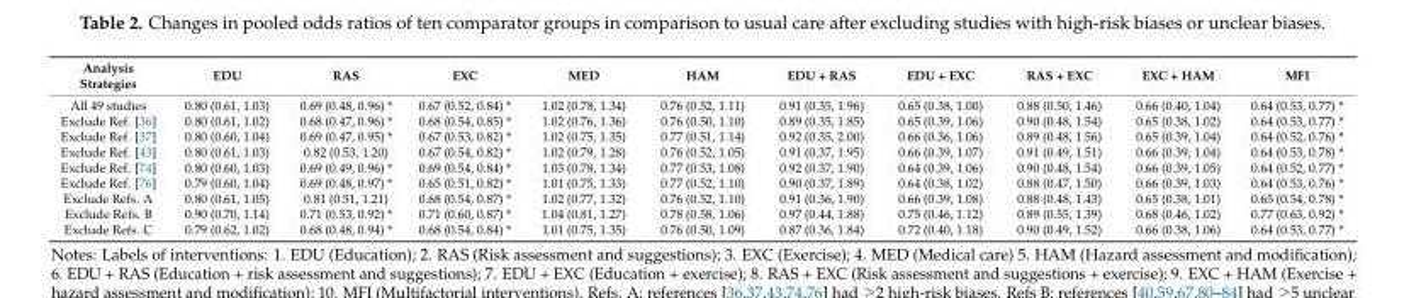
<table><thead><tr><td>Analysis Strategies</td><td>EDU</td><td>RAS</td><td>EXC</td><td>MED</td><td>HAM</td><td>EDU + RAS</td><td>EDU + EXC</td><td>RAS + EXC</td><td>EXC + HAM</td><td>MFI</td></tr></thead><tbody><tr><td>All 49 studies</td><td>0.80 (0.61, 1.03)</td><td>0.69 (0.48, 0.96) *</td><td>0.67 (0.52, 0.84) *</td><td>1.02 (0.78, 1.34)</td><td>0.76 (0.52, 1.11)</td><td>0.91 (0.35, 1.96)</td><td>0.65 (0.38, 1.00)</td><td>0.88 (0.50, 1.46)</td><td>0.66 (0.40, 1.04)</td><td>0.64 (0.53, 0.77) *</td></tr><tr><td>Exclude Ref. [36]</td><td>0.80 (0.61, 1.02)</td><td>0.68 (0.47, 0.96) *</td><td>0.68 (0.54, 0.85) *</td><td>1.02 (0.76, 1.36)</td><td>0.76 (0.50, 1.10)</td><td>0.89 (0.35, 1.85)</td><td>0.65 (0.39, 1.06)</td><td>0.90 (0.48, 1.54)</td><td>0.65 (0.38, 1.02)</td><td>0.64 (0.53, 0.77) *</td></tr><tr><td>Exclude Ref. [37]</td><td>0.80 (0.60, 1.04)</td><td>0.69 (0.47, 0.95) *</td><td>0.67 (0.53, 0.82) *</td><td>1.02 (0.75, 1.35)</td><td>0.77 (0.51, 1.14)</td><td>0.92 (0.35, 2.00)</td><td>0.66 (0.36, 1.06)</td><td>0.89 (0.48, 1.56)</td><td>0.65 (0.39, 1.04)</td><td>0.64 (0.52, 0.76) *</td></tr><tr><td>Exclude Ref. [43]</td><td>0.80 (0.61, 1.03)</td><td>0.82 (0.53, 1.20)</td><td>0.67 (0.54, 0.82) *</td><td>1.02 (0.79, 1.28)</td><td>0.76 (0.52, 1.05)</td><td>0.91 (0.37, 1.95)</td><td>0.66 (0.39, 1.07)</td><td>0.91 (0.49, 1.51)</td><td>0.66 (0.39, 1.04)</td><td>0.64 (0.53, 0.78) *</td></tr><tr><td>Exclude Ref. [74]</td><td>0.80 (0.60, 1.03)</td><td>0.69 (0.49, 0.96) *</td><td>0.69 (0.54, 0.84) *</td><td>1.03 (0.78, 1.34)</td><td>0.77 (0.53, 1.08)</td><td>0.92 (0.37, 1.90)</td><td>0.64 (0.39, 1.06)</td><td>0.90 (0.48, 1.54)</td><td>0.66 (0.39, 1.05)</td><td>0.64 (0.52, 0.77) *</td></tr><tr><td>Exclude Ref. [76]</td><td>0.79 (0.60, 1.04)</td><td>0.69 (0.48, 0.97) *</td><td>0.65 (0.51, 0.82) *</td><td>1.01 (0.75, 1.33)</td><td>0.77 (0.52, 1.10)</td><td>0.90 (0.37, 1.89)</td><td>0.64 (0.38, 1.02)</td><td>0.88 (0.47, 1.50)</td><td>0.66 (0.39, 1.03)</td><td>0.64 (0.53, 0.76) *</td></tr><tr><td>Exclude Refs. A</td><td>0.80 (0.61, 1.05)</td><td>0.81 (0.51, 1.21)</td><td>0.68 (0.54, 0.87) *</td><td>1.02 (0.77, 1.32)</td><td>0.76 (0.52, 1.10)</td><td>0.91 (0.36, 1.90)</td><td>0.66 (0.39, 1.08)</td><td>0.88 (0.48, 1.43)</td><td>0.65 (0.38, 1.01)</td><td>0.65 (0.54, 0.78) *</td></tr><tr><td>Exclude Refs. B</td><td>0.90 (0.70, 1.14)</td><td>0.71 (0.53, 0.92) *</td><td>0.71 (0.60, 0.87) *</td><td>1.04 (0.81, 1.27)</td><td>0.78 (0.58, 1.06)</td><td>0.97 (0.44, 1.88)</td><td>0.75 (0.46, 1.12)</td><td>0.89 (0.55, 1.39)</td><td>0.68 (0.46, 1.02)</td><td>0.77 (0.63, 0.92) *</td></tr><tr><td>Exclude Refs. C</td><td>0.79 (0.62, 1.02)</td><td>0.68 (0.48, 0.94) *</td><td>0.68 (0.54, 0.84) *</td><td>1.01 (0.75, 1.35)</td><td>0.76 (0.50, 1.09)</td><td>0.87 (0.36, 1.84)</td><td>0.72 (0.40, 1.18)</td><td>0.90 (0.49, 1.52)</td><td>0.66 (0.38, 1.06)</td><td>0.64 (0.53, 0.77) *</td></tr></tbody></table>